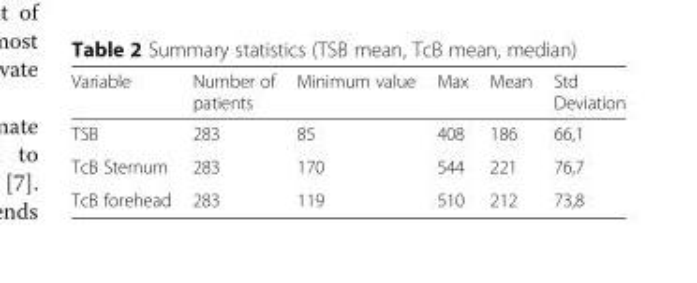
<table><thead><tr><td>Variable</td><td>Number of patients</td><td>Minimum value</td><td>Max</td><td>Mean</td><td>Std Deviation</td></tr></thead><tbody><tr><td>TSB</td><td>283</td><td>85</td><td>408</td><td>186</td><td>66,1</td></tr><tr><td>TcB Sternum</td><td>283</td><td>170</td><td>544</td><td>221</td><td>76,7</td></tr><tr><td>TcB forehead</td><td>283</td><td>119</td><td>510</td><td>212</td><td>73,8</td></tr></tbody></table>